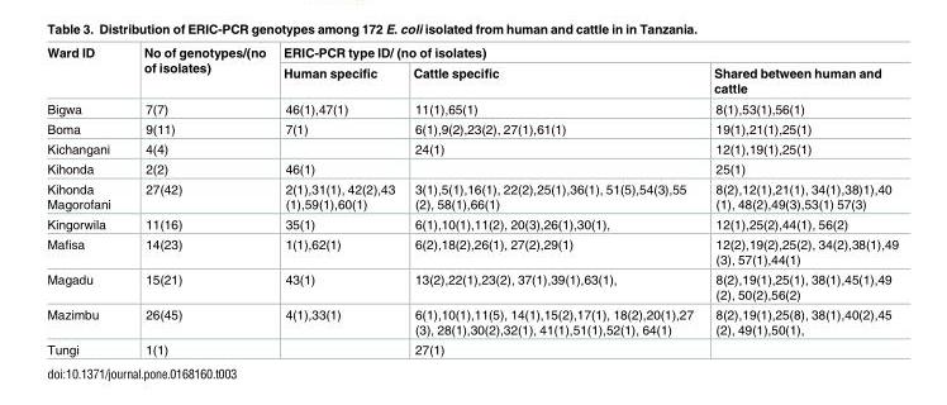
<table><thead><tr><td rowspan="2">Ward ID</td><td rowspan="2">No of genotypes/(no of isolates)</td><td colspan="3">ERIC-PCR type ID/ (no of isolates)</td></tr><tr><td>Human specific</td><td>Cattle specific</td><td>Shared between human and cattle</td></tr></thead><tbody><tr><td>Bigwa</td><td>7(7)</td><td>46(1),47(1)</td><td>11(1),65(1)</td><td>8(1),53(1),56(1)</td></tr><tr><td>Boma</td><td>9(11)</td><td>7(1)</td><td>6(1),9(2),23(2), 27(1),61(1)</td><td>19(1),21(1),25(1)</td></tr><tr><td>Kichangani</td><td>4(4)</td><td></td><td>24(1)</td><td>12(1),19(1),25(1)</td></tr><tr><td>Kihonda</td><td>2(2)</td><td>46(1)</td><td></td><td>25(1)</td></tr><tr><td>Kihonda Magorofani</td><td>27(42)</td><td>2(1),31(1), 42(2),43 (1),59(1),60(1)</td><td>3(1),5(1),16(1), 22(2),25(1),36(1), 51(5),54(3),55 (2), 58(1),66(1)</td><td>8(2),12(1),21(1), 34(1),38)1),40 (1), 48(2),49(3),53(1) 57(3)</td></tr><tr><td>Kingorwila</td><td>11(16)</td><td>35(1)</td><td>6(1),10(1),11(2), 20(3),26(1),30(1),</td><td>12(1),25(2),44(1), 56(2)</td></tr><tr><td>Mafisa</td><td>14(23)</td><td>1(1),62(1)</td><td>6(2),18(2),26(1), 27(2),29(1)</td><td>12(2),19(2),25(2), 34(2),38(1),49 (3), 57(1),44(1)</td></tr><tr><td>Magadu</td><td>15(21)</td><td>43(1)</td><td>13(2),22(1),23(2), 37(1),39(1),63(1),</td><td>8(2),19(1),25(1), 38(1),45(1),49 (2), 50(2),56(2)</td></tr><tr><td>Mazimbu</td><td>26(45)</td><td>4(1),33(1)</td><td>6(1),10(1),11(5), 14(1),15(2),17(1), 18(2),20(1),27 (3), 28(1),30(2),32(1), 41(1),51(1),52(1), 64(1)</td><td>8(2),19(1),25(8), 38(1),40(2),45 (2), 49(1),50(1),</td></tr><tr><td>Tungi</td><td>1(1)</td><td></td><td>27(1)</td><td></td></tr></tbody></table>